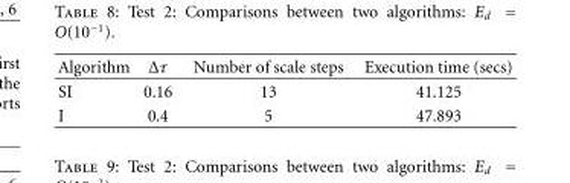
<table><thead><tr><td>Algorithm</td><td>Δτ</td><td>Number of scale steps</td><td>Execution time (secs)</td></tr></thead><tbody><tr><td>SI</td><td>0.16</td><td>13</td><td>41.125</td></tr><tr><td>I</td><td>0.4</td><td>5</td><td>47.893</td></tr></tbody></table>